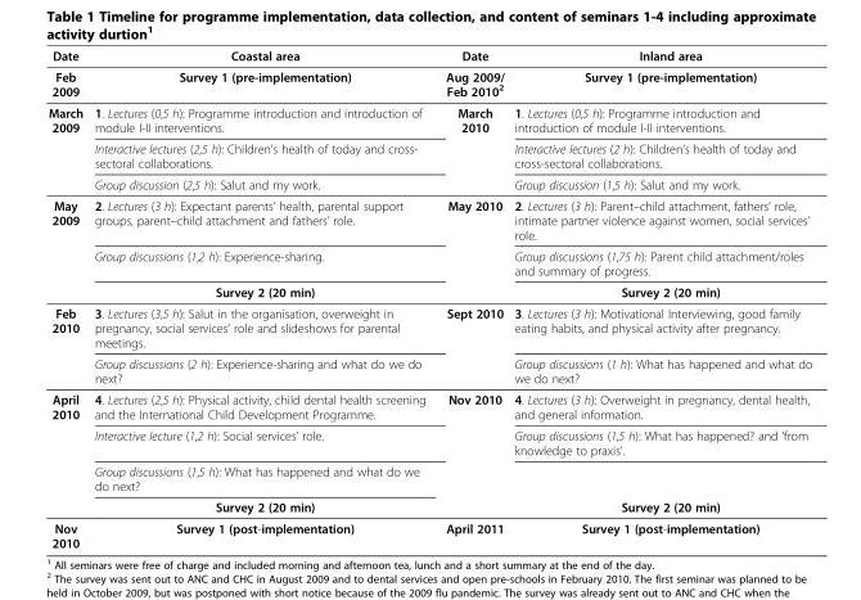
<table><thead><tr><td>Date</td><td>Coastal area</td><td>Date</td><td>Inland area</td></tr></thead><tbody><tr><td>Feb 2009</td><td>Survey 1 (pre-implementation)</td><td>Aug 2009/ Feb 2010<sup>2</sup></td><td>Survey 1 (pre-implementation)</td></tr><tr><td rowspan="3">March 2009</td><td>1. Lectures (0,5 h): Programme introduction and introduction of module I-II interventions.</td><td>March 2010</td><td>1. Lectures (0,5 h): Programme introduction and introduction of module I-II interventions.</td></tr><tr><td>Interactive lectures (2,5 h): Children’s health of today and cross- sectoral collaborations.</td><td></td><td>Interactive lectures (2 h): Children’s health of today and cross-sectoral collaborations.</td></tr><tr><td>Group discussion (2,5 h): Salut and my work.</td><td></td><td>Group discussion (1,5 h): Salut and my work.</td></tr><tr><td rowspan="3">May 2009</td><td>2. Lectures (3 h): Expectant parents’ health, parental support groups, parent–child attachment and fathers’ role.</td><td>May 2010</td><td>2. Lectures (3 h): Parent–child attachment, fathers’ role, intimate partner violence against women, social services’ role.</td></tr><tr><td>Group discussions (1,2 h): Experience-sharing.</td><td></td><td>Group discussions (1,75 h): Parent child attachment/roles and summary of progress.</td></tr><tr><td>Survey 2 (20 min)</td><td></td><td>Survey 2 (20 min)</td></tr><tr><td rowspan="2">Feb 2010</td><td>3. Lectures (3,5 h): Salut in the organisation, overweight in pregnancy, social services’ role and slideshows for parental meetings.</td><td>Sept 2010</td><td>3. Lectures (3 h): Motivational Interviewing, good family eating habits, and physical activity after pregnancy.</td></tr><tr><td>Group discussions (2 h): Experience-sharing and what do we do next?</td><td></td><td>Group discussions (1 h): What has happened and what do we do next?</td></tr><tr><td rowspan="4">April 2010</td><td>4. Lectures (2,5 h): Physical activity, child dental health screening and the International Child Development Programme.</td><td>Nov 2010</td><td>4. Lectures (3 h): Overweight in pregnancy, dental health, and general information.</td></tr><tr><td>Interactive lecture (1,2 h): Social services’ role.</td><td></td><td>Group discussions (1,5 h): What has happened? and ‘from knowledge to praxis’.</td></tr><tr><td>Group discussions (1,5 h): What has happened and what do we do next?</td><td></td><td></td></tr><tr><td>Survey 2 (20 min)</td><td></td><td>Survey 2 (20 min)</td></tr><tr><td>Nov 2010</td><td>Survey 1 (post-implementation)</td><td>April 2011</td><td>Survey 1 (post-implementation)</td></tr></tbody></table>